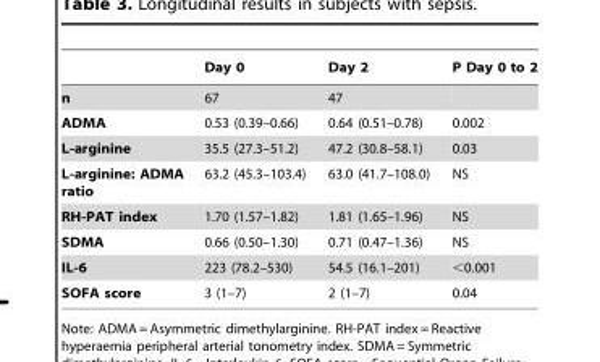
<table><thead><tr><td></td><td>Day 0</td><td>Day 2</td><td>P Day 0 to 2</td></tr></thead><tbody><tr><td>n</td><td>67</td><td>47</td><td></td></tr><tr><td>ADMA</td><td>0.53 (0.39–0.66)</td><td>0.64 (0.51–0.78)</td><td>0.002</td></tr><tr><td>L-arginine</td><td>35.5 (27.3–51.2)</td><td>47.2 (30.8–58.1)</td><td>0.03</td></tr><tr><td>L-arginine: ADMA ratio</td><td>63.2 (45.3–103.4)</td><td>63.0 (41.7–108.0)</td><td>NS</td></tr><tr><td>RH-PAT index</td><td>1.70 (1.57–1.82)</td><td>1.81 (1.65–1.96)</td><td>NS</td></tr><tr><td>SDMA</td><td>0.66 (0.50–1.30)</td><td>0.71 (0.47–1.36)</td><td>NS</td></tr><tr><td>IL-6</td><td>223 (78.2–530)</td><td>54.5 (16.1–201)</td><td>&lt;0.001</td></tr><tr><td>SOFA score</td><td>3 (1–7)</td><td>2 (1–7)</td><td>0.04</td></tr></tbody></table>